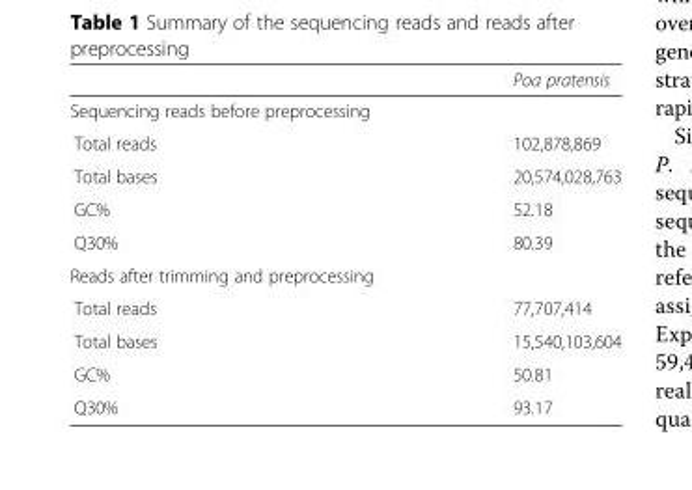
<table><thead><tr><td></td><td>Poa pratensis</td></tr></thead><tbody><tr><td colspan="2">Sequencing reads before preprocessing</td></tr><tr><td>Total reads</td><td>102,878,869</td></tr><tr><td>Total bases</td><td>20,574,028,763</td></tr><tr><td>GC%</td><td>52.18</td></tr><tr><td>Q30%</td><td>80.39</td></tr><tr><td colspan="2">Reads after trimming and preprocessing</td></tr><tr><td>Total reads</td><td>77,707,414</td></tr><tr><td>Total bases</td><td>15,540,103,604</td></tr><tr><td>GC%</td><td>50.81</td></tr><tr><td>Q30%</td><td>93.17</td></tr></tbody></table>